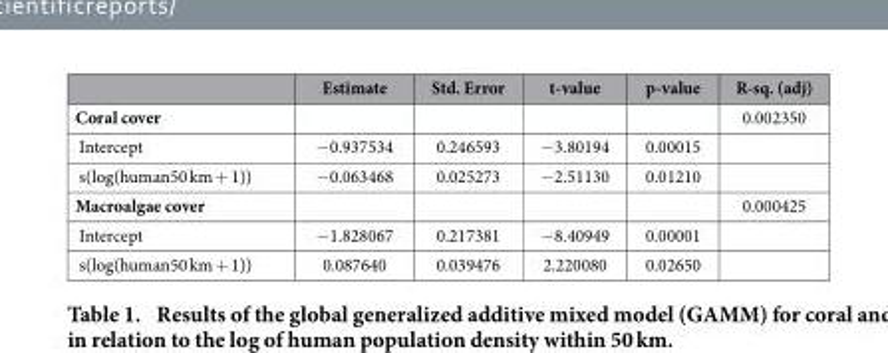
<table><thead><tr><td></td><td>Estimate</td><td>Std. Error</td><td>t-value</td><td>p-value</td><td>R-sq. (adj)</td></tr></thead><tbody><tr><td>Coral cover</td><td></td><td></td><td></td><td></td><td>0.002350</td></tr><tr><td>Intercept</td><td>− 0.937534</td><td>0.246593</td><td>− 3.80194</td><td>0.00015</td><td></td></tr><tr><td>s(log(human50 km + 1))</td><td>− 0.063468</td><td>0.025273</td><td>− 2.51130</td><td>0.01210</td><td></td></tr><tr><td>Macroalgae cover</td><td></td><td></td><td></td><td></td><td>0.000425</td></tr><tr><td>Intercept</td><td>− 1.828067</td><td>0.217381</td><td>− 8.40949</td><td>0.00001</td><td></td></tr><tr><td>s(log(human50 km + 1))</td><td>0.087640</td><td>0.039476</td><td>2.220080</td><td>0.02650</td><td></td></tr></tbody></table>